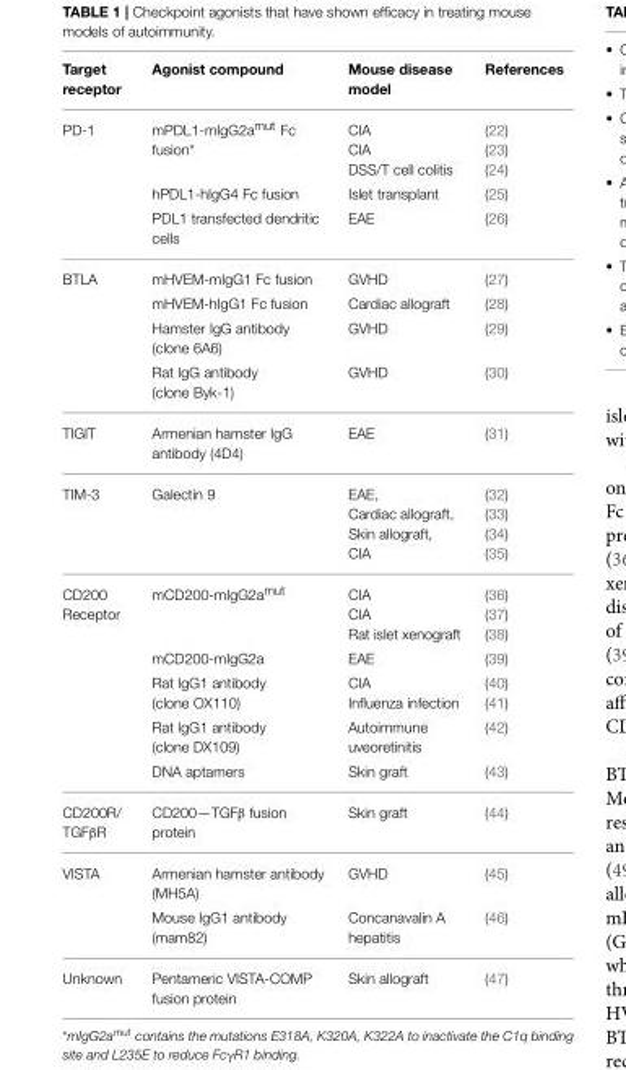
<table><thead><tr><td>Target receptor</td><td>Agonist compound</td><td>Mouse disease model</td><td>References</td></tr></thead><tbody><tr><td rowspan="3">PD-1</td><td>mPDL1-mIgG2a<sup>mut</sup> Fc fusion*</td><td>CIA CIA DSS/T cell colitis</td><td>(22) (23) (24)</td></tr><tr><td>hPDL1-hIgG4 Fc fusion</td><td>Islet transplant</td><td>(25)</td></tr><tr><td>PDL1 transfected dendritic cells</td><td>EAE</td><td>(26)</td></tr><tr><td rowspan="4">BTLA</td><td>mHVEM-mIgG1 Fc fusion</td><td>GVHD</td><td>(27)</td></tr><tr><td>mHVEM-hIgG1 Fc fusion</td><td>Cardiac allograft</td><td>(28)</td></tr><tr><td>Hamster IgG antibody (clone 6A6)</td><td>GVHD</td><td>(29)</td></tr><tr><td>Rat IgG antibody (clone Byk-1)</td><td>GVHD</td><td>(30)</td></tr><tr><td>TIGIT</td><td>Armenian hamster IgG antibody (4D4)</td><td>EAE</td><td>(31)</td></tr><tr><td>TIM-3</td><td>Galectin 9</td><td>EAE, Cardiac allograft, Skin allograft, CIA</td><td>(32) (33) (34) (35)</td></tr><tr><td rowspan="5">CD200 Receptor</td><td>mCD200-mIgG2a<sup>mut</sup></td><td>CIA CIA Rat islet xenograft</td><td>(36) (37) (38)</td></tr><tr><td>mCD200-mIgG2a</td><td>EAE</td><td>(39)</td></tr><tr><td>Rat IgG1 antibody (clone OX110)</td><td>CIA Influenza infection</td><td>(40) (41)</td></tr><tr><td>Rat IgG1 antibody (clone DX109)</td><td>Autoimmune uveoretinitis</td><td>(42)</td></tr><tr><td>DNA aptamers</td><td>Skin graft</td><td>(43)</td></tr><tr><td>CD200R/ TGFβR</td><td>CD200—TGFβ fusion protein</td><td>Skin graft</td><td>(44)</td></tr><tr><td rowspan="2">VISTA</td><td>Armenian hamster antibody (MH5A)</td><td>GVHD</td><td>(45)</td></tr><tr><td>Mouse IgG1 antibody (mam82)</td><td>Concanavalin A hepatitis</td><td>(46)</td></tr><tr><td>Unknown</td><td>Pentameric VISTA-COMP fusion protein</td><td>Skin allograft</td><td>(47)</td></tr></tbody></table>